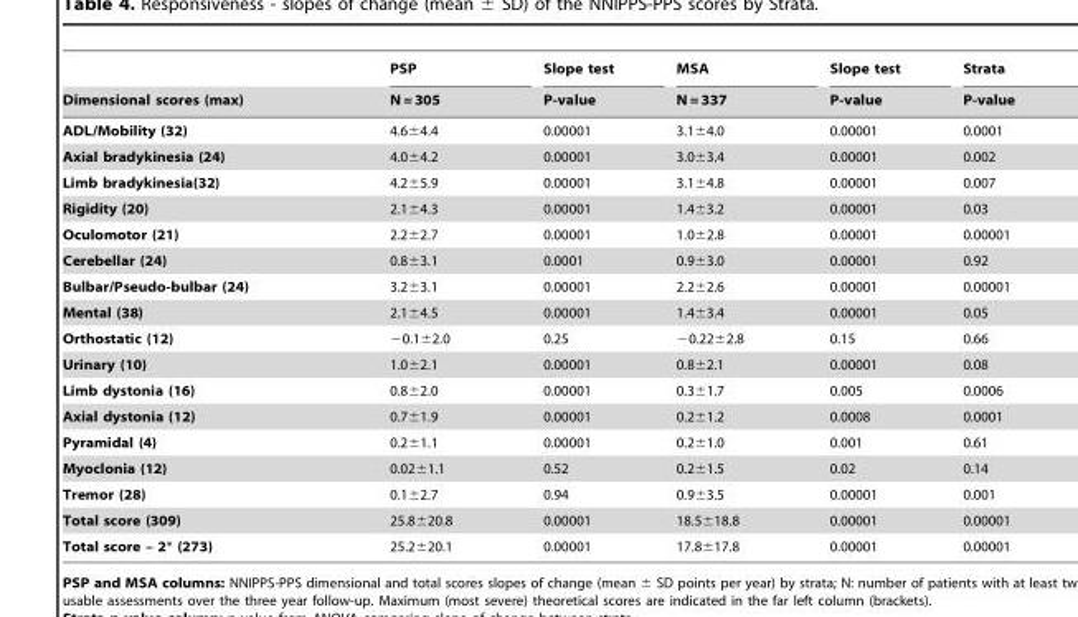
<table><thead><tr><td rowspan="2">Dimensional scores (max)</td><td rowspan="2">PSP N = 305</td><td rowspan="2">Slope test P-value</td><td rowspan="2">MSA N = 337</td><td rowspan="2">Slope test P-value</td><td rowspan="2">Strata P-value</td></tr><tr></tr></thead><tbody><tr><td>ADL/Mobility (32)</td><td>4.6±4.4</td><td>0.00001</td><td>3.1±4.0</td><td>0.00001</td><td>0.0001</td></tr><tr><td>Axial bradykinesia (24)</td><td>4.0±4.2</td><td>0.00001</td><td>3.0±3.4</td><td>0.00001</td><td>0.002</td></tr><tr><td>Limb bradykinesia(32)</td><td>4.2±5.9</td><td>0.00001</td><td>3.1±4.8</td><td>0.00001</td><td>0.007</td></tr><tr><td>Rigidity (20)</td><td>2.1±4.3</td><td>0.00001</td><td>1.4±3.2</td><td>0.00001</td><td>0.03</td></tr><tr><td>Oculomotor (21)</td><td>2.2±2.7</td><td>0.00001</td><td>1.0±2.8</td><td>0.00001</td><td>0.00001</td></tr><tr><td>Cerebellar (24)</td><td>0.8±3.1</td><td>0.0001</td><td>0.9±3.0</td><td>0.00001</td><td>0.92</td></tr><tr><td>Bulbar/Pseudo-bulbar (24)</td><td>3.2±3.1</td><td>0.00001</td><td>2.2±2.6</td><td>0.00001</td><td>0.00001</td></tr><tr><td>Mental (38)</td><td>2.1±4.5</td><td>0.00001</td><td>1.4±3.4</td><td>0.00001</td><td>0.05</td></tr><tr><td>Orthostatic (12)</td><td>−0.1±2.0</td><td>0.25</td><td>−0.22±2.8</td><td>0.15</td><td>0.66</td></tr><tr><td>Urinary (10)</td><td>1.0±2.1</td><td>0.00001</td><td>0.8±2.1</td><td>0.00001</td><td>0.08</td></tr><tr><td>Limb dystonia (16)</td><td>0.8±2.0</td><td>0.00001</td><td>0.3±1.7</td><td>0.005</td><td>0.0006</td></tr><tr><td>Axial dystonia (12)</td><td>0.7±1.9</td><td>0.00001</td><td>0.2±1.2</td><td>0.0008</td><td>0.0001</td></tr><tr><td>Pyramidal (4)</td><td>0.2±1.1</td><td>0.00001</td><td>0.2±1.0</td><td>0.001</td><td>0.61</td></tr><tr><td>Myoclonia (12)</td><td>0.02±1.1</td><td>0.52</td><td>0.2±1.5</td><td>0.02</td><td>0.14</td></tr><tr><td>Tremor (28)</td><td>0.1±2.7</td><td>0.94</td><td>0.9±3.5</td><td>0.00001</td><td>0.001</td></tr><tr><td>Total score (309)</td><td>25.8±20.8</td><td>0.00001</td><td>18.5±18.8</td><td>0.00001</td><td>0.00001</td></tr><tr><td>Total score – 2* (273)</td><td>25.2±20.1</td><td>0.00001</td><td>17.8±17.8</td><td>0.00001</td><td>0.00001</td></tr></tbody></table>